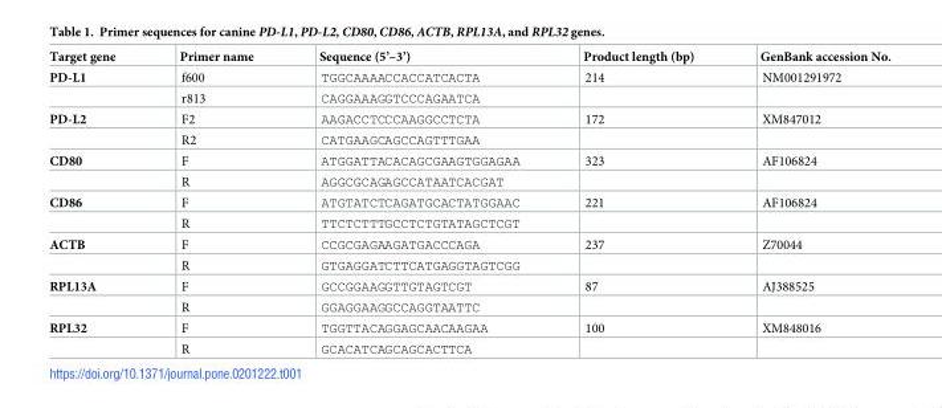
<table><thead><tr><td>Target gene</td><td>Primer name</td><td>Sequence (5’–3’)</td><td>Product length (bp)</td><td>GenBank accession No.</td></tr></thead><tbody><tr><td rowspan="2">PD-L1</td><td>f600</td><td>TGGCAAAACCACCATCACTA</td><td>214</td><td>NM001291972</td></tr><tr><td>r813</td><td>CAGGAAAGGTCCCAGAATCA</td><td></td><td></td></tr><tr><td rowspan="2">PD-L2</td><td>F2</td><td>AAGACCTCCCAAGGCCTCTA</td><td>172</td><td>XM847012</td></tr><tr><td>R2</td><td>CATGAAGCAGCCAGTTTGAA</td><td></td><td></td></tr><tr><td rowspan="2">CD80</td><td>F</td><td>ATGGATTACACAGCGAAGTGGAGAA</td><td>323</td><td>AF106824</td></tr><tr><td>R</td><td>AGGCGCAGAGCCATAATCACGAT</td><td></td><td></td></tr><tr><td rowspan="2">CD86</td><td>F</td><td>ATGTATCTCAGATGCACTATGGAAC</td><td>221</td><td>AF106824</td></tr><tr><td>R</td><td>TTCTCTTTGCCTCTGTATAGCTCGT</td><td></td><td></td></tr><tr><td rowspan="2">ACTB</td><td>F</td><td>CCGCGAGAAGATGACCCAGA</td><td>237</td><td>Z70044</td></tr><tr><td>R</td><td>GTGAGGATCTTCATGAGGTAGTCGG</td><td></td><td></td></tr><tr><td rowspan="2">RPL13A</td><td>F</td><td>GCCGGAAGGTTGTAGTCGT</td><td>87</td><td>AJ388525</td></tr><tr><td>R</td><td>GGAGGAAGGCCAGGTAATTC</td><td></td><td></td></tr><tr><td rowspan="2">RPL32</td><td>F</td><td>TGGTTACAGGAGCAACAAGAA</td><td>100</td><td>XM848016</td></tr><tr><td>R</td><td>GCACATCAGCAGCACTTCA</td><td></td><td></td></tr></tbody></table>